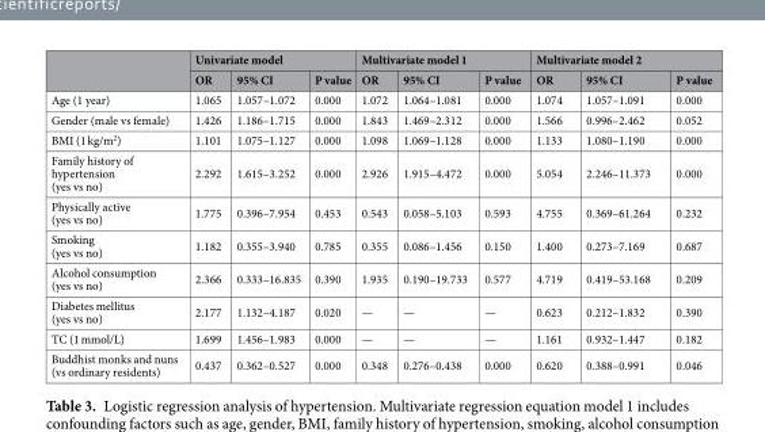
<table><thead><tr><td rowspan="2"></td><td colspan="3">Univariate model</td><td colspan="3">Multivariate model 1</td><td colspan="3">Multivariate model 2</td></tr><tr><td>OR</td><td>95% CI</td><td>P value</td><td>OR</td><td>95% CI</td><td>P value</td><td>OR</td><td>95% CI</td><td>P value</td></tr></thead><tbody><tr><td>Age (1 year)</td><td>1.065</td><td>1.057–1.072</td><td>0.000</td><td>1.072</td><td>1.064–1.081</td><td>0.000</td><td>1.074</td><td>1.057–1.091</td><td>0.000</td></tr><tr><td>Gender (male vs female)</td><td>1.426</td><td>1.186–1.715</td><td>0.000</td><td>1.843</td><td>1.469–2.312</td><td>0.000</td><td>1.566</td><td>0.996–2.462</td><td>0.052</td></tr><tr><td>BMI (1 kg/m<sup>2</sup>)</td><td>1.101</td><td>1.075–1.127</td><td>0.000</td><td>1.098</td><td>1.069–1.128</td><td>0.000</td><td>1.133</td><td>1.080–1.190</td><td>0.000</td></tr><tr><td>Family history of hypertension (yes vs no)</td><td>2.292</td><td>1.615–3.252</td><td>0.000</td><td>2.926</td><td>1.915–4.472</td><td>0.000</td><td>5.054</td><td>2.246–11.373</td><td>0.000</td></tr><tr><td>Physically active (yes vs no)</td><td>1.775</td><td>0.396–7.954</td><td>0.453</td><td>0.543</td><td>0.058–5.103</td><td>0.593</td><td>4.755</td><td>0.369–61.264</td><td>0.232</td></tr><tr><td>Smoking (yes vs no)</td><td>1.182</td><td>0.355–3.940</td><td>0.785</td><td>0.355</td><td>0.086–1.456</td><td>0.150</td><td>1.400</td><td>0.273–7.169</td><td>0.687</td></tr><tr><td>Alcohol consumption (yes vs no)</td><td>2.366</td><td>0.333–16.835</td><td>0.390</td><td>1.935</td><td>0.190–19.733</td><td>0.577</td><td>4.719</td><td>0.419–53.168</td><td>0.209</td></tr><tr><td>Diabetes mellitus (yes vs no)</td><td>2.177</td><td>1.132–4.187</td><td>0.020</td><td>—</td><td>—</td><td>—</td><td>0.623</td><td>0.212–1.832</td><td>0.390</td></tr><tr><td>TC (1 mmol/L)</td><td>1.699</td><td>1.456–1.983</td><td>0.000</td><td>—</td><td>—</td><td>—</td><td>1.161</td><td>0.932–1.447</td><td>0.182</td></tr><tr><td>Buddhist monks and nuns (vs ordinary residents)</td><td>0.437</td><td>0.362–0.527</td><td>0.000</td><td>0.348</td><td>0.276–0.438</td><td>0.000</td><td>0.620</td><td>0.388–0.991</td><td>0.046</td></tr></tbody></table>